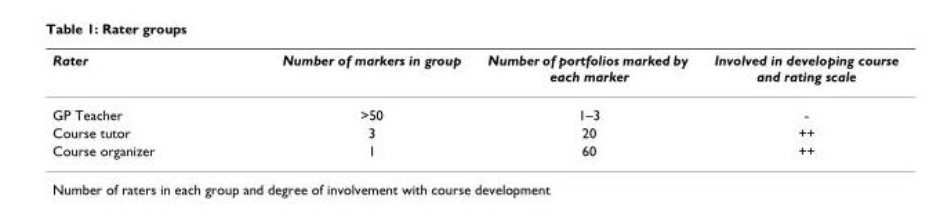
<table><thead><tr><td>Rater</td><td>Number of markers in group</td><td>Number of portfolios marked by each marker</td><td>Involved in developing course and rating scale</td></tr></thead><tbody><tr><td>GP Teacher</td><td>&gt;50</td><td>1–3</td><td>-</td></tr><tr><td>Course tutor</td><td>3</td><td>20</td><td>++</td></tr><tr><td>Course organizer</td><td>1</td><td>60</td><td>++</td></tr></tbody></table>